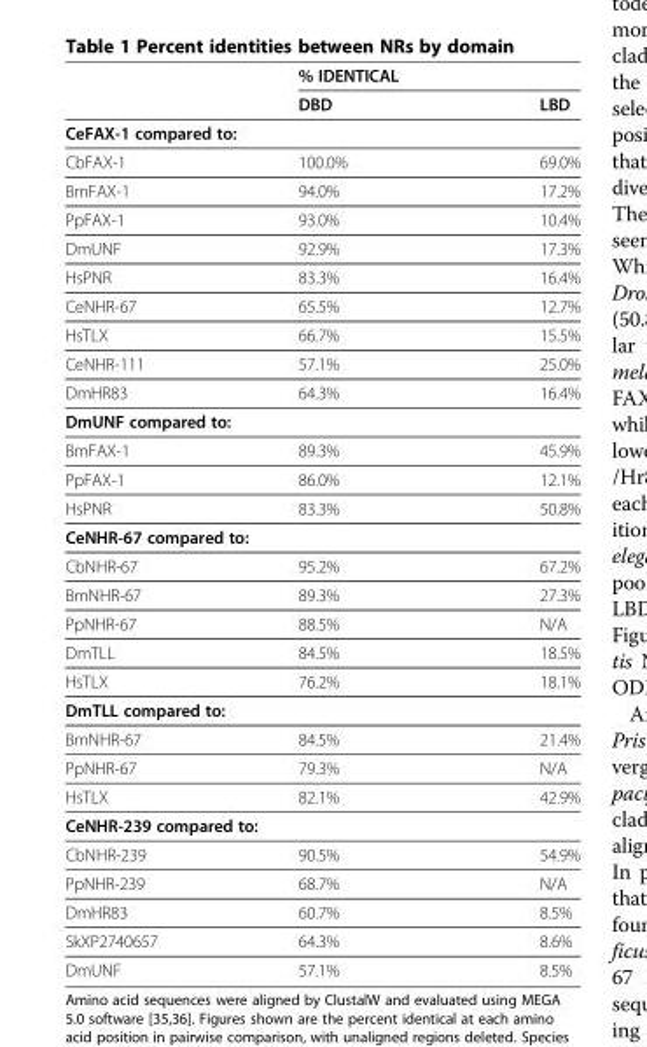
<table><thead><tr><td rowspan="2"></td><td rowspan="2">% IDENTICAL DBD</td><td rowspan="2">LBD</td></tr><tr></tr></thead><tbody><tr><td colspan="3">CeFAX-1 compared to:</td></tr><tr><td>CbFAX-1</td><td>100.0%</td><td>69.0%</td></tr><tr><td>BmFAX-1</td><td>94.0%</td><td>17.2%</td></tr><tr><td>PpFAX-1</td><td>93.0%</td><td>10.4%</td></tr><tr><td>DmUNF</td><td>92.9%</td><td>17.3%</td></tr><tr><td>HsPNR</td><td>83.3%</td><td>16.4%</td></tr><tr><td>CeNHR-67</td><td>65.5%</td><td>12.7%</td></tr><tr><td>HsTLX</td><td>66.7%</td><td>15.5%</td></tr><tr><td>CeNHR-111</td><td>57.1%</td><td>25.0%</td></tr><tr><td>DmHR83</td><td>64.3%</td><td>16.4%</td></tr><tr><td colspan="3">DmUNF compared to:</td></tr><tr><td>BmFAX-1</td><td>89.3%</td><td>45.9%</td></tr><tr><td>PpFAX-1</td><td>86.0%</td><td>12.1%</td></tr><tr><td>HsPNR</td><td>83.3%</td><td>50.8%</td></tr><tr><td colspan="3">CeNHR-67 compared to:</td></tr><tr><td>CbNHR-67</td><td>95.2%</td><td>67.2%</td></tr><tr><td>BmNHR-67</td><td>89.3%</td><td>27.3%</td></tr><tr><td>PpNHR-67</td><td>88.5%</td><td>N/A</td></tr><tr><td>DmTLL</td><td>84.5%</td><td>18.5%</td></tr><tr><td>HsTLX</td><td>76.2%</td><td>18.1%</td></tr><tr><td colspan="3">DmTLL compared to:</td></tr><tr><td>BmNHR-67</td><td>84.5%</td><td>21.4%</td></tr><tr><td>PpNHR-67</td><td>79.3%</td><td>N/A</td></tr><tr><td>HsTLX</td><td>82.1%</td><td>42.9%</td></tr><tr><td colspan="3">CeNHR-239 compared to:</td></tr><tr><td>CbNHR-239</td><td>90.5%</td><td>54.9%</td></tr><tr><td>PpNHR-239</td><td>68.7%</td><td>N/A</td></tr><tr><td>DmHR83</td><td>60.7%</td><td>8.5%</td></tr><tr><td>SkXP2740657</td><td>64.3%</td><td>8.6%</td></tr><tr><td>DmUNF</td><td>57.1%</td><td>8.5%</td></tr></tbody></table>